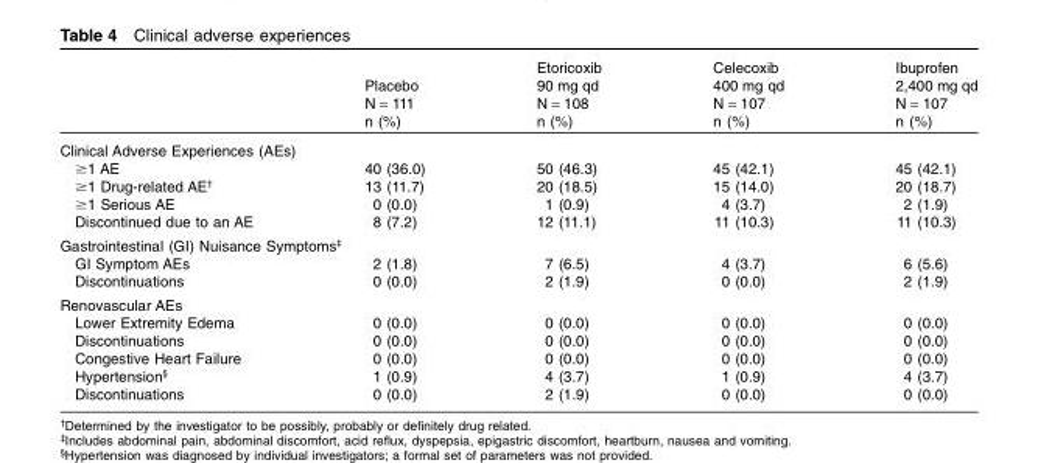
<table><thead><tr><td></td><td>Placebo N = 111 n (%)</td><td>Etoricoxib 90 mg qd N = 108 n (%)</td><td>Celecoxib 400 mg qd N = 107 n (%)</td><td>Ibuprofen 2,400 mg qd N = 107 n (%)</td></tr></thead><tbody><tr><td colspan="5">Clinical Adverse Experiences (AEs)</td></tr><tr><td>≥1 AE</td><td>40 (36.0)</td><td>50 (46.3)</td><td>45 (42.1)</td><td>45 (42.1)</td></tr><tr><td>≥1 Drug-related AE†</td><td>13 (11.7)</td><td>20 (18.5)</td><td>15 (14.0)</td><td>20 (18.7)</td></tr><tr><td>≥1 Serious AE</td><td>0 (0.0)</td><td>1 (0.9)</td><td>4 (3.7)</td><td>2 (1.9)</td></tr><tr><td>Discontinued due to an AE</td><td>8 (7.2)</td><td>12 (11.1)</td><td>11 (10.3)</td><td>11 (10.3)</td></tr><tr><td colspan="5">Gastrointestinal (GI) Nuisance Symptoms‡</td></tr><tr><td>GI Symptom AEs</td><td>2 (1.8)</td><td>7 (6.5)</td><td>4 (3.7)</td><td>6 (5.6)</td></tr><tr><td>Discontinuations</td><td>0 (0.0)</td><td>2 (1.9)</td><td>0 (0.0)</td><td>2 (1.9)</td></tr><tr><td colspan="5">Renovascular AEs</td></tr><tr><td>Lower Extremity Edema</td><td>0 (0.0)</td><td>0 (0.0)</td><td>0 (0.0)</td><td>0 (0.0)</td></tr><tr><td>Discontinuations</td><td>0 (0.0)</td><td>0 (0.0)</td><td>0 (0.0)</td><td>0 (0.0)</td></tr><tr><td>Congestive Heart Failure</td><td>0 (0.0)</td><td>0 (0.0)</td><td>0 (0.0)</td><td>0 (0.0)</td></tr><tr><td>Hypertension§</td><td>1 (0.9)</td><td>4 (3.7)</td><td>1 (0.9)</td><td>4 (3.7)</td></tr><tr><td>Discontinuations</td><td>0 (0.0)</td><td>2 (1.9)</td><td>0 (0.0)</td><td>0 (0.0)</td></tr></tbody></table>